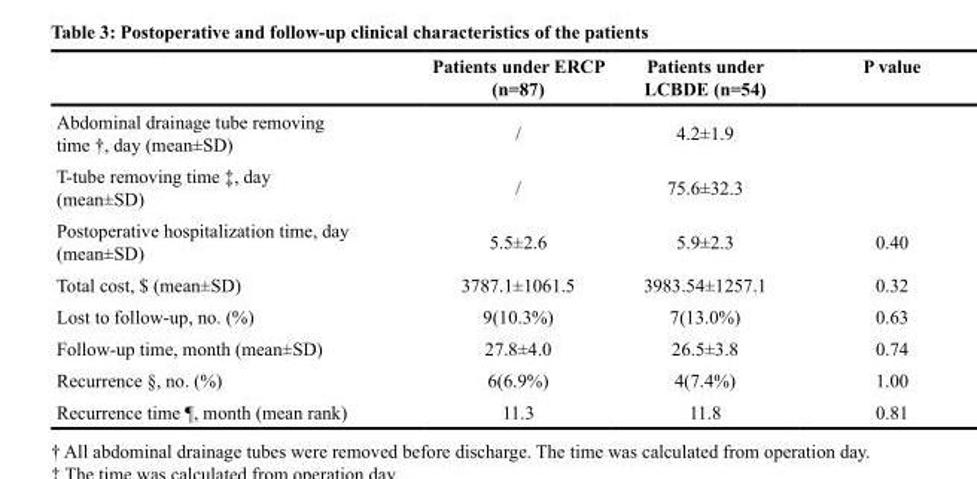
<table><thead><tr><td></td><td>Patients under ERCP (n=87)</td><td>Patients under LCBDE (n=54)</td><td>P value</td></tr></thead><tbody><tr><td>Abdominal drainage tube removing time †, day (mean±SD)</td><td>/</td><td>4.2±1.9</td><td></td></tr><tr><td>T-tube removing time ‡, day (mean±SD)</td><td>/</td><td>75.6±32.3</td><td></td></tr><tr><td>Postoperative hospitalization time, day (mean±SD)</td><td>5.5±2.6</td><td>5.9±2.3</td><td>0.40</td></tr><tr><td>Total cost, $ (mean±SD)</td><td>3787.1±1061.5</td><td>3983.54±1257.1</td><td>0.32</td></tr><tr><td>Lost to follow-up, no. (%)</td><td>9(10.3%)</td><td>7(13.0%)</td><td>0.63</td></tr><tr><td>Follow-up time, month (mean±SD)</td><td>27.8±4.0</td><td>26.5±3.8</td><td>0.74</td></tr><tr><td>Recurrence §, no. (%)</td><td>6(6.9%)</td><td>4(7.4%)</td><td>1.00</td></tr><tr><td>Recurrence time ¶, month (mean rank)</td><td>11.3</td><td>11.8</td><td>0.81</td></tr></tbody></table>